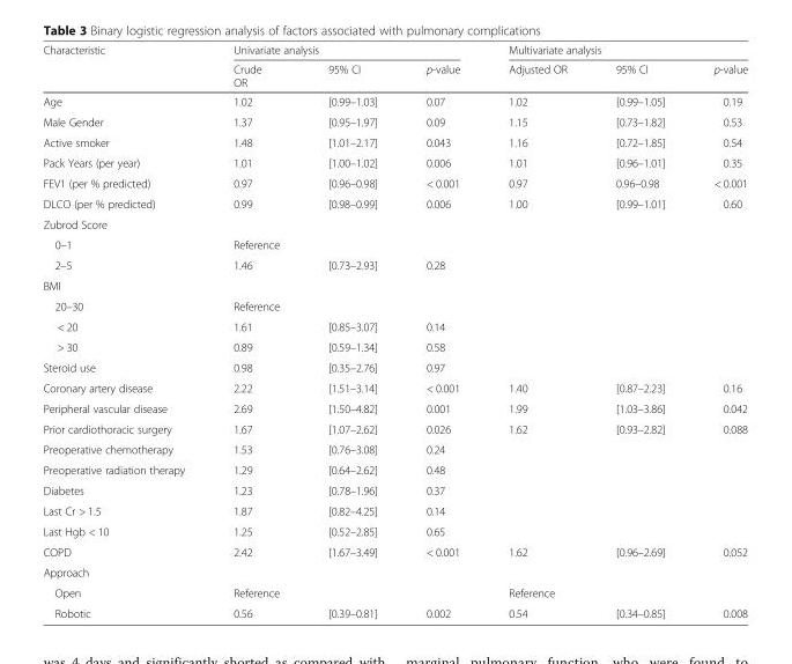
<table><thead><tr><td rowspan="2">Characteristic</td><td colspan="3">Univariate analysis</td><td colspan="3">Multivariate analysis</td></tr><tr><td>Crude OR</td><td>95% CI</td><td>p-value</td><td>Adjusted OR</td><td>95% CI</td><td>p-value</td></tr></thead><tbody><tr><td>Age</td><td>1.02</td><td>[0.99–1.03]</td><td>0.07</td><td>1.02</td><td>[0.99–1.05]</td><td>0.19</td></tr><tr><td>Male Gender</td><td>1.37</td><td>[0.95–1.97]</td><td>0.09</td><td>1.15</td><td>[0.73–1.82]</td><td>0.53</td></tr><tr><td>Active smoker</td><td>1.48</td><td>[1.01–2.17]</td><td>0.043</td><td>1.16</td><td>[0.72–1.85]</td><td>0.54</td></tr><tr><td>Pack Years (per year)</td><td>1.01</td><td>[1.00–1.02]</td><td>0.006</td><td>1.01</td><td>[0.96–1.01]</td><td>0.35</td></tr><tr><td>FEV1 (per % predicted)</td><td>0.97</td><td>[0.96–0.98]</td><td>&lt; 0.001</td><td>0.97</td><td>0.96–0.98</td><td>&lt; 0.001</td></tr><tr><td>DLCO (per % predicted)</td><td>0.99</td><td>[0.98–0.99]</td><td>0.006</td><td>1.00</td><td>[0.99–1.01]</td><td>0.60</td></tr><tr><td colspan="7">Zubrod Score</td></tr><tr><td>0–1</td><td>Reference</td><td></td><td></td><td></td><td></td><td></td></tr><tr><td>2–5</td><td>1.46</td><td>[0.73–2.93]</td><td>0.28</td><td></td><td></td><td></td></tr><tr><td colspan="7">BMI</td></tr><tr><td>20–30</td><td>Reference</td><td></td><td></td><td></td><td></td><td></td></tr><tr><td>&lt; 20</td><td>1.61</td><td>[0.85–3.07]</td><td>0.14</td><td></td><td></td><td></td></tr><tr><td>&gt; 30</td><td>0.89</td><td>[0.59–1.34]</td><td>0.58</td><td></td><td></td><td></td></tr><tr><td>Steroid use</td><td>0.98</td><td>[0.35–2.76]</td><td>0.97</td><td></td><td></td><td></td></tr><tr><td>Coronary artery disease</td><td>2.22</td><td>[1.51–3.14]</td><td>&lt; 0.001</td><td>1.40</td><td>[0.87–2.23]</td><td>0.16</td></tr><tr><td>Peripheral vascular disease</td><td>2.69</td><td>[1.50–4.82]</td><td>0.001</td><td>1.99</td><td>[1.03–3.86]</td><td>0.042</td></tr><tr><td>Prior cardiothoracic surgery</td><td>1.67</td><td>[1.07–2.62]</td><td>0.026</td><td>1.62</td><td>[0.93–2.82]</td><td>0.088</td></tr><tr><td>Preoperative chemotherapy</td><td>1.53</td><td>[0.76–3.08]</td><td>0.24</td><td></td><td></td><td></td></tr><tr><td>Preoperative radiation therapy</td><td>1.29</td><td>[0.64–2.62]</td><td>0.48</td><td></td><td></td><td></td></tr><tr><td>Diabetes</td><td>1.23</td><td>[0.78–1.96]</td><td>0.37</td><td></td><td></td><td></td></tr><tr><td>Last Cr &gt; 1.5</td><td>1.87</td><td>[0.82–4.25]</td><td>0.14</td><td></td><td></td><td></td></tr><tr><td>Last Hgb &lt; 10</td><td>1.25</td><td>[0.52–2.85]</td><td>0.65</td><td></td><td></td><td></td></tr><tr><td>COPD</td><td>2.42</td><td>[1.67–3.49]</td><td>&lt; 0.001</td><td>1.62</td><td>[0.96–2.69]</td><td>0.052</td></tr><tr><td colspan="7">Approach</td></tr><tr><td>Open</td><td>Reference</td><td></td><td></td><td>Reference</td><td></td><td></td></tr><tr><td>Robotic</td><td>0.56</td><td>[0.39–0.81]</td><td>0.002</td><td>0.54</td><td>[0.34–0.85]</td><td>0.008</td></tr></tbody></table>